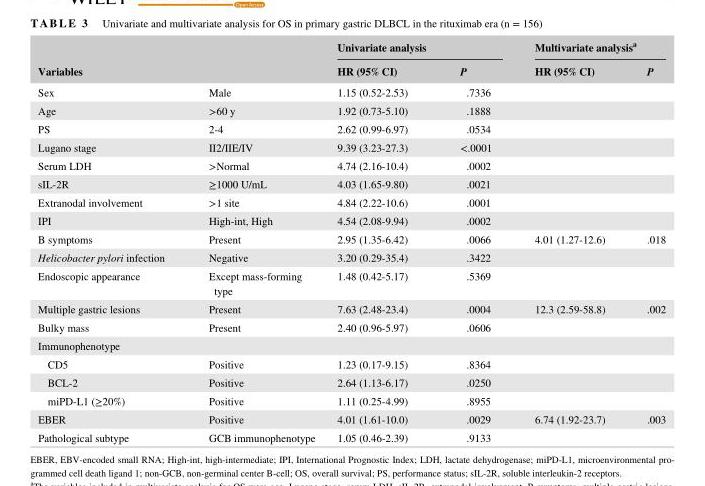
<table><thead><tr><td rowspan="2" colspan="2">Variables</td><td colspan="2">Univariate analysis</td><td colspan="2">Multivariate analysis<sup>a</sup></td></tr><tr><td rowspan="2">HR (95% CI) 1.15 (0.52- 2.53)</td><td rowspan="2">P .7336</td><td rowspan="2">HR (95% CI)</td><td rowspan="2">P</td></tr><tr><td>Sex</td><td>Male</td></tr></thead><tbody><tr><td>Age</td><td>&gt;60 y</td><td>1.92 (0.73- 5.10)</td><td>.1888</td><td></td><td></td></tr><tr><td>PS</td><td>2- 4</td><td>2.62 (0.99- 6.97)</td><td>.0534</td><td></td><td></td></tr><tr><td>Lugano stage</td><td>II2/IIE/IV</td><td>9.39 (3.23- 27.3)</td><td>&lt;.0001</td><td></td><td></td></tr><tr><td>Serum LDH</td><td>&gt;Normal</td><td>4.74 (2.16- 10.4)</td><td>.0002</td><td></td><td></td></tr><tr><td>sIL- 2R</td><td>≥1000 U/mL</td><td>4.03 (1.65- 9.80)</td><td>.0021</td><td></td><td></td></tr><tr><td>Extranodal involvement</td><td>&gt;1 site</td><td>4.84 (2.22- 10.6)</td><td>.0001</td><td></td><td></td></tr><tr><td>IPI</td><td>High‐int, High</td><td>4.54 (2.08- 9.94)</td><td>.0002</td><td></td><td></td></tr><tr><td>B symptoms</td><td>Present</td><td>2.95 (1.35- 6.42)</td><td>.0066</td><td>4.01 (1.27- 12.6)</td><td>.018</td></tr><tr><td>Helicobacter pylori infection</td><td>Negative</td><td>3.20 (0.29- 35.4)</td><td>.3422</td><td></td><td></td></tr><tr><td>Endoscopic appearance</td><td>Except mass‐forming type</td><td>1.48 (0.42- 5.17)</td><td>.5369</td><td></td><td></td></tr><tr><td>Multiple gastric lesions</td><td>Present</td><td>7.63 (2.48- 23.4)</td><td>.0004</td><td>12.3 (2.59- 58.8)</td><td>.002</td></tr><tr><td>Bulky mass</td><td>Present</td><td>2.40 (0.96- 5.97)</td><td>.0606</td><td></td><td></td></tr><tr><td colspan="6">Immunophenotype</td></tr><tr><td>CD5</td><td>Positive</td><td>1.23 (0.17- 9.15)</td><td>.8364</td><td></td><td></td></tr><tr><td>BCL- 2</td><td>Positive</td><td>2.64 (1.13- 6.17)</td><td>.0250</td><td></td><td></td></tr><tr><td>miPD- L1 (≥20%)</td><td>Positive</td><td>1.11 (0.25- 4.99)</td><td>.8955</td><td></td><td></td></tr><tr><td>EBER</td><td>Positive</td><td>4.01 (1.61- 10.0)</td><td>.0029</td><td>6.74 (1.92- 23.7)</td><td>.003</td></tr><tr><td>Pathological subtype</td><td>GCB immunophenotype</td><td>1.05 (0.46- 2.39)</td><td>.9133</td><td></td><td></td></tr></tbody></table>